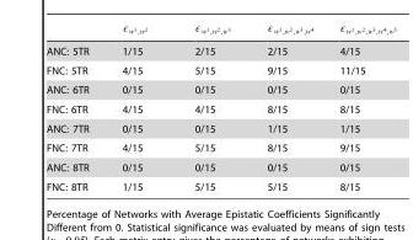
<table><tbody><tr><td>ANC: 5TR</td><td>1/15</td><td>2/15</td><td>2/15</td><td>4/15</td></tr><tr><td>FNC: 5TR</td><td>4/15</td><td>5/15</td><td>9/15</td><td>11/15</td></tr><tr><td>ANC: 6TR</td><td>0/15</td><td>0/15</td><td>0/15</td><td>0/15</td></tr><tr><td>FNC: 6TR</td><td>4/15</td><td>4/15</td><td>8/15</td><td>8/15</td></tr><tr><td>ANC: 7TR</td><td>0/15</td><td>0/15</td><td>1/15</td><td>1/15</td></tr><tr><td>FNC: 7TR</td><td>4/15</td><td>5/15</td><td>8/15</td><td>9/15</td></tr><tr><td>ANC: 8TR</td><td>0/15</td><td>0/15</td><td>0/15</td><td>0/15</td></tr><tr><td>FNC: 8TR</td><td>1/15</td><td>5/15</td><td>5/15</td><td>8/15</td></tr></tbody></table>